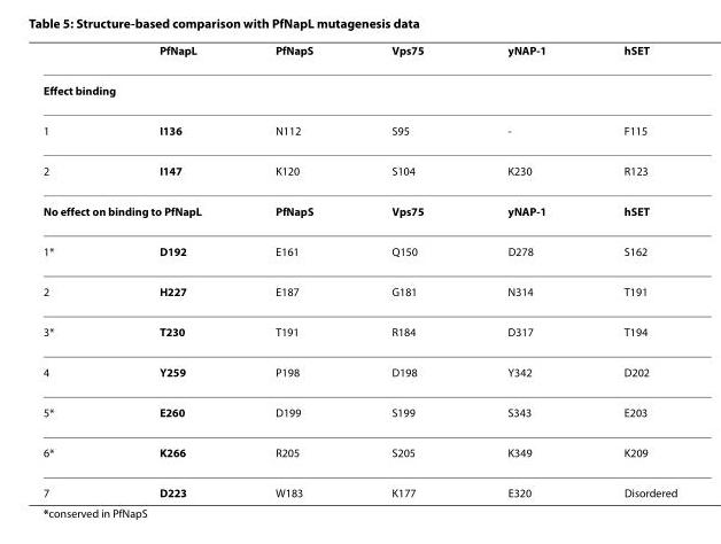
<table><thead><tr><td></td><td>PfNapL</td><td>PfNapS</td><td>Vps75</td><td>yNAP-1</td><td>hSET</td></tr></thead><tbody><tr><td colspan="6">Effect binding</td></tr><tr><td>1</td><td>I136</td><td>N112</td><td>S95</td><td>-</td><td>F115</td></tr><tr><td>2</td><td>I147</td><td>K120</td><td>S104</td><td>K230</td><td>R123</td></tr><tr><td colspan="2">No effect on binding to PfNapL</td><td>PfNapS</td><td>Vps75</td><td>yNAP-1</td><td>hSET</td></tr><tr><td>1*</td><td>D192</td><td>E161</td><td>Q150</td><td>D278</td><td>S162</td></tr><tr><td>2</td><td>H227</td><td>E187</td><td>G181</td><td>N314</td><td>T191</td></tr><tr><td>3*</td><td>T230</td><td>T191</td><td>R184</td><td>D317</td><td>T194</td></tr><tr><td>4</td><td>Y259</td><td>P198</td><td>D198</td><td>Y342</td><td>D202</td></tr><tr><td>5*</td><td>E260</td><td>D199</td><td>S199</td><td>S343</td><td>E203</td></tr><tr><td>6*</td><td>K266</td><td>R205</td><td>S205</td><td>K349</td><td>K209</td></tr><tr><td>7</td><td>D223</td><td>W183</td><td>K177</td><td>E320</td><td>Disordered</td></tr></tbody></table>